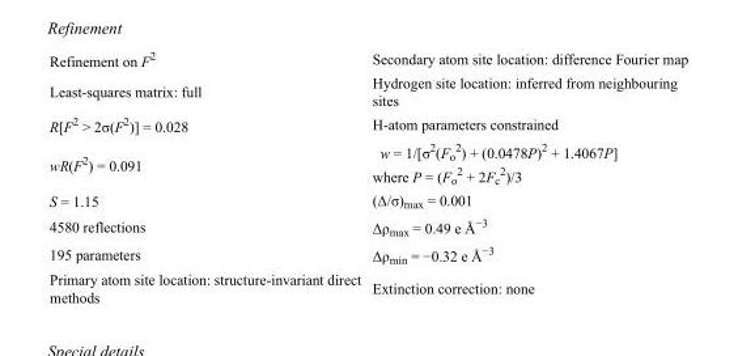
<table><tbody><tr><td>Refinement on F<sup>2</sup></td><td>Secondary atom site location: difference Fourier map</td></tr><tr><td>Least-squares matrix: full</td><td>Hydrogen site location: inferred from neighbouring sites</td></tr><tr><td>R[F<sup>2</sup> &gt; 2σ(F<sup>2</sup>)] = 0.028</td><td>H-atom parameters constrained</td></tr><tr><td>wR(F<sup>2</sup>) = 0.091</td><td>w = 1/[σ<sup>2</sup>(F<sub>o</sub> <sup>2</sup>) + (0.0478P)<sup>2</sup> + 1.4067P] where P = (F<sub>o</sub> <sup>2</sup> + 2F<sub>c</sub> <sup>2</sup>)/3</td></tr><tr><td>S = 1.15</td><td>(Δ/σ)<sub>max</sub> = 0.001</td></tr><tr><td>4580 reflections</td><td>Δρ<sub>max</sub> = 0.49 e Å<sup>−3</sup></td></tr><tr><td>195 parameters</td><td>Δρ<sub>min</sub> = −0.32 e Å<sup>−3</sup></td></tr><tr><td>Primary atom site location: structure-invariant direct methods</td><td>Extinction correction: none</td></tr></tbody></table>